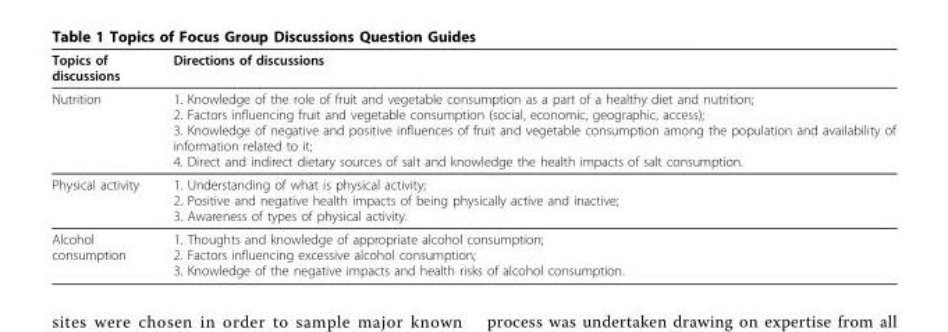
<table><thead><tr><td>Topics of discussions</td><td>Directions of discussions</td></tr></thead><tbody><tr><td>Nutrition</td><td>1. Knowledge of the role of fruit and vegetable consumption as a part of a healthy diet and nutrition; 2. Factors influencing fruit and vegetable consumption (social, economic, geographic, access); 3. Knowledge of negative and positive influences of fruit and vegetable consumption among the population and availability of information related to it; 4. Direct and indirect dietary sources of salt and knowledge the health impacts of salt consumption.</td></tr><tr><td>Physical activity</td><td>1. Understanding of what is physical activity; 2. Positive and negative health impacts of being physically active and inactive; 3. Awareness of types of physical activity.</td></tr><tr><td>Alcohol consumption</td><td>1. Thoughts and knowledge of appropriate alcohol consumption; 2. Factors influencing excessive alcohol consumption; 3. Knowledge of the negative impacts and health risks of alcohol consumption.</td></tr></tbody></table>